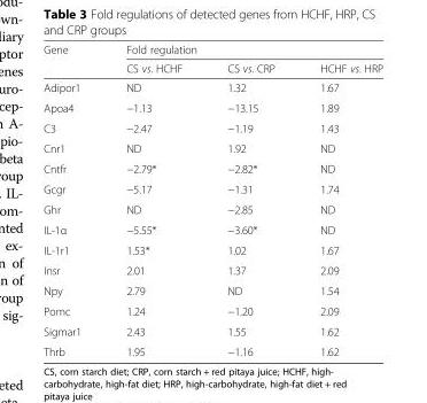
<table><thead><tr><td rowspan="2">Gene</td><td colspan="3">Fold regulation</td></tr><tr><td>CS vs. HCHF</td><td>CS vs. CRP</td><td>HCHF vs. HRP</td></tr></thead><tbody><tr><td>Adipor1</td><td>ND</td><td>1.32</td><td>1.67</td></tr><tr><td>Apoa4</td><td>−1.13</td><td>−13.15</td><td>1.89</td></tr><tr><td>C3</td><td>−2.47</td><td>−1.19</td><td>1.43</td></tr><tr><td>Cnr1</td><td>ND</td><td>1.92</td><td>ND</td></tr><tr><td>Cntfr</td><td>−2.79*</td><td>−2.82*</td><td>ND</td></tr><tr><td>Gcgr</td><td>−5.17</td><td>−1.31</td><td>1.74</td></tr><tr><td>Ghr</td><td>ND</td><td>−2.85</td><td>ND</td></tr><tr><td>IL-1α</td><td>−5.55*</td><td>−3.60*</td><td>ND</td></tr><tr><td>IL-1r1</td><td>1.53*</td><td>1.02</td><td>1.67</td></tr><tr><td>Insr</td><td>2.01</td><td>1.37</td><td>2.09</td></tr><tr><td>Npy</td><td>2.79</td><td>ND</td><td>1.54</td></tr><tr><td>Pomc</td><td>1.24</td><td>−1.20</td><td>2.09</td></tr><tr><td>Sigmar1</td><td>2.43</td><td>1.55</td><td>1.62</td></tr><tr><td>Thrb</td><td>1.95</td><td>−1.16</td><td>1.62</td></tr></tbody></table>